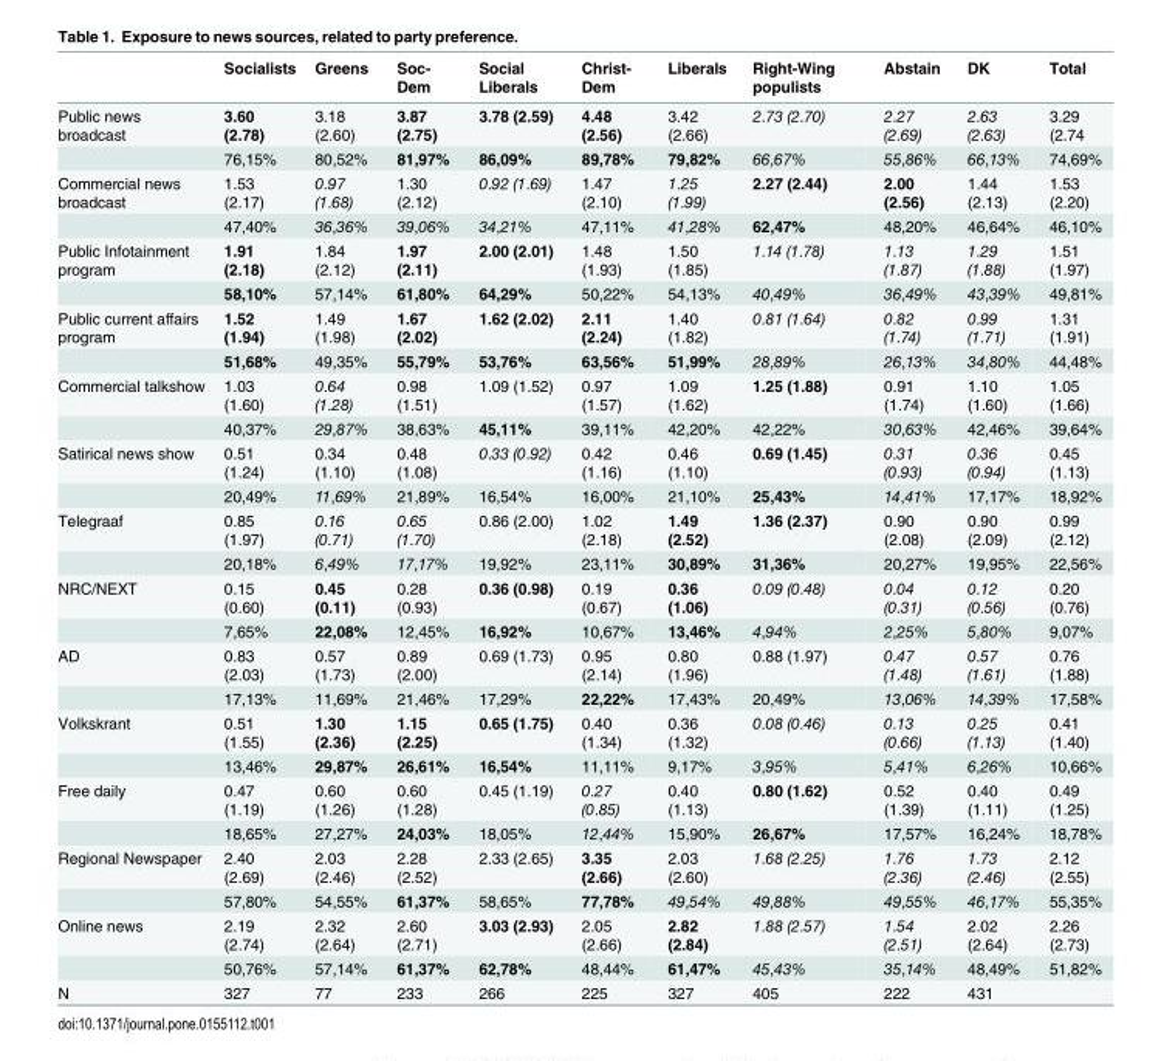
<table><thead><tr><td></td><td>Socialists</td><td>Greens</td><td>Soc- Dem</td><td>Social Liberals</td><td>Christ- Dem</td><td>Liberals</td><td>Right-Wing populists</td><td>Abstain</td><td>DK</td><td>Total</td></tr></thead><tbody><tr><td rowspan="2">Public news broadcast</td><td>3.60 (2.78)</td><td>3.18 (2.60)</td><td>3.87 (2.75)</td><td>3.78 (2.59)</td><td>4.48 (2.56)</td><td>3.42 (2.66)</td><td>2.73 (2.70)</td><td>2.27 (2.69)</td><td>2.63 (2.63)</td><td>3.29 (2.74</td></tr><tr><td>76,15%</td><td>80,52%</td><td>81,97%</td><td>86,09%</td><td>89,78%</td><td>79,82%</td><td>66,67%</td><td>55,86%</td><td>66,13%</td><td>74,69%</td></tr><tr><td rowspan="2">Commercial news broadcast</td><td>1.53 (2.17)</td><td>0.97 (1.68)</td><td>1.30 (2.12)</td><td>0.92 (1.69)</td><td>1.47 (2.10)</td><td>1.25 (1.99)</td><td>2.27 (2.44)</td><td>2.00 (2.56)</td><td>1.44 (2.13)</td><td>1.53 (2.20)</td></tr><tr><td>47,40%</td><td>36,36%</td><td>39,06%</td><td>34,21%</td><td>47,11%</td><td>41,28%</td><td>62,47%</td><td>48,20%</td><td>46,64%</td><td>46,10%</td></tr><tr><td rowspan="2">Public Infotainment program</td><td>1.91 (2.18)</td><td>1.84 (2.12)</td><td>1.97 (2.11)</td><td>2.00 (2.01)</td><td>1.48 (1.93)</td><td>1.50 (1.85)</td><td>1.14 (1.78)</td><td>1.13 (1.87)</td><td>1.29 (1.88)</td><td>1.51 (1.97)</td></tr><tr><td>58,10%</td><td>57,14%</td><td>61,80%</td><td>64,29%</td><td>50,22%</td><td>54,13%</td><td>40,49%</td><td>36,49%</td><td>43,39%</td><td>49,81%</td></tr><tr><td rowspan="2">Public current affairs program</td><td>1.52 (1.94)</td><td>1.49 (1.98)</td><td>1.67 (2.02)</td><td>1.62 (2.02)</td><td>2.11 (2.24)</td><td>1.40 (1.82)</td><td>0.81 (1.64)</td><td>0.82 (1.74)</td><td>0.99 (1.71)</td><td>1.31 (1.91)</td></tr><tr><td>51,68%</td><td>49,35%</td><td>55,79%</td><td>53,76%</td><td>63,56%</td><td>51,99%</td><td>28,89%</td><td>26,13%</td><td>34,80%</td><td>44,48%</td></tr><tr><td rowspan="2">Commercial talkshow</td><td>1.03 (1.60)</td><td>0.64 (1.28)</td><td>0.98 (1.51)</td><td>1.09 (1.52)</td><td>0.97 (1.57)</td><td>1.09 (1.62)</td><td>1.25 (1.88)</td><td>0.91 (1.74)</td><td>1.10 (1.60)</td><td>1.05 (1.66)</td></tr><tr><td>40,37%</td><td>29,87%</td><td>38,63%</td><td>45,11%</td><td>39,11%</td><td>42,20%</td><td>42,22%</td><td>30,63%</td><td>42,46%</td><td>39,64%</td></tr><tr><td rowspan="2">Satirical news show</td><td>0.51 (1.24)</td><td>0.34 (1.10)</td><td>0.48 (1.08)</td><td>0.33 (0.92)</td><td>0.42 (1.16)</td><td>0.46 (1.10)</td><td>0.69 (1.45)</td><td>0.31 (0.93)</td><td>0.36 (0.94)</td><td>0.45 (1.13)</td></tr><tr><td>20,49%</td><td>11,69%</td><td>21,89%</td><td>16,54%</td><td>16,00%</td><td>21,10%</td><td>25,43%</td><td>14,41%</td><td>17,17%</td><td>18,92%</td></tr><tr><td rowspan="2">Telegraaf</td><td>0.85 (1.97)</td><td>0.16 (0.71)</td><td>0.65 (1.70)</td><td>0.86 (2.00)</td><td>1.02 (2.18)</td><td>1.49 (2.52)</td><td>1.36 (2.37)</td><td>0.90 (2.08)</td><td>0.90 (2.09)</td><td>0.99 (2.12)</td></tr><tr><td>20,18%</td><td>6,49%</td><td>17,17%</td><td>19,92%</td><td>23,11%</td><td>30,89%</td><td>31,36%</td><td>20,27%</td><td>19,95%</td><td>22,56%</td></tr><tr><td rowspan="2">NRC/NEXT</td><td>0.15 (0.60)</td><td>0.45 (0.11)</td><td>0.28 (0.93)</td><td>0.36 (0.98)</td><td>0.19 (0.67)</td><td>0.36 (1.06)</td><td>0.09 (0.48)</td><td>0.04 (0.31)</td><td>0.12 (0.56)</td><td>0.20 (0.76)</td></tr><tr><td>7,65%</td><td>22,08%</td><td>12,45%</td><td>16,92%</td><td>10,67%</td><td>13,46%</td><td>4,94%</td><td>2,25%</td><td>5,80%</td><td>9,07%</td></tr><tr><td rowspan="2">AD</td><td>0.83 (2.03)</td><td>0.57 (1.73)</td><td>0.89 (2.00)</td><td>0.69 (1.73)</td><td>0.95 (2.14)</td><td>0.80 (1.96)</td><td>0.88 (1.97)</td><td>0.47 (1.48)</td><td>0.57 (1.61)</td><td>0.76 (1.88)</td></tr><tr><td>17,13%</td><td>11,69%</td><td>21,46%</td><td>17,29%</td><td>22,22%</td><td>17,43%</td><td>20,49%</td><td>13,06%</td><td>14,39%</td><td>17,58%</td></tr><tr><td rowspan="2">Volkskrant</td><td>0.51 (1.55)</td><td>1.30 (2.36)</td><td>1.15 (2.25)</td><td>0.65 (1.75)</td><td>0.40 (1.34)</td><td>0.36 (1.32)</td><td>0.08 (0.46)</td><td>0.13 (0.66)</td><td>0.25 (1.13)</td><td>0.41 (1.40)</td></tr><tr><td>13,46%</td><td>29,87%</td><td>26,61%</td><td>16,54%</td><td>11,11%</td><td>9,17%</td><td>3,95%</td><td>5,41%</td><td>6,26%</td><td>10,66%</td></tr><tr><td rowspan="2">Free daily</td><td>0.47 (1.19)</td><td>0.60 (1.26)</td><td>0.60 (1.28)</td><td>0.45 (1.19)</td><td>0.27 (0.85)</td><td>0.40 (1.13)</td><td>0.80 (1.62)</td><td>0.52 (1.39)</td><td>0.40 (1.11)</td><td>0.49 (1.25)</td></tr><tr><td>18,65%</td><td>27,27%</td><td>24,03%</td><td>18,05%</td><td>12,44%</td><td>15,90%</td><td>26,67%</td><td>17,57%</td><td>16,24%</td><td>18,78%</td></tr><tr><td rowspan="2">Regional Newspaper</td><td>2.40 (2.69)</td><td>2.03 (2.46)</td><td>2.28 (2.52)</td><td>2.33 (2.65)</td><td>3.35 (2.66)</td><td>2.03 (2.60)</td><td>1.68 (2.25)</td><td>1.76 (2.36)</td><td>1.73 (2.46)</td><td>2.12 (2.55)</td></tr><tr><td>57,80%</td><td>54,55%</td><td>61,37%</td><td>58,65%</td><td>77,78%</td><td>49,54%</td><td>49,88%</td><td>49,55%</td><td>46,17%</td><td>55,35%</td></tr><tr><td rowspan="2">Online news</td><td>2.19 (2.74)</td><td>2.32 (2.64)</td><td>2.60 (2.71)</td><td>3.03 (2.93)</td><td>2.05 (2.66)</td><td>2.82 (2.84)</td><td>1.88 (2.57)</td><td>1.54 (2.51)</td><td>2.02 (2.64)</td><td>2.26 (2.73)</td></tr><tr><td>50,76%</td><td>57,14%</td><td>61,37%</td><td>62,78%</td><td>48,44%</td><td>61,47%</td><td>45,43%</td><td>35,14%</td><td>48,49%</td><td>51,82%</td></tr><tr><td>N</td><td>327</td><td>77</td><td>233</td><td>266</td><td>225</td><td>327</td><td>405</td><td>222</td><td>431</td><td></td></tr></tbody></table>